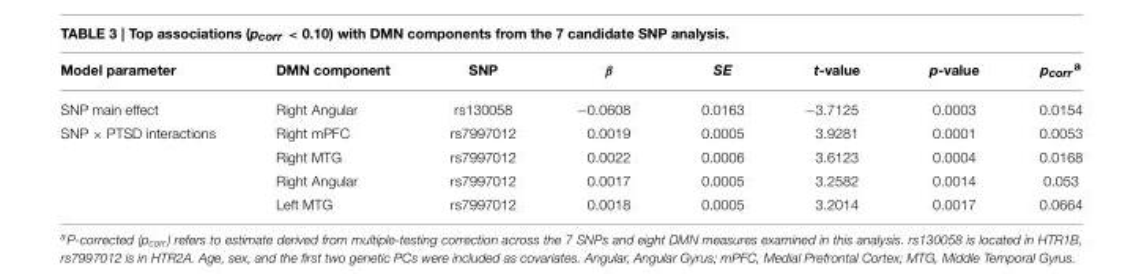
<table><thead><tr><td>Model parameter</td><td>DMN component</td><td>SNP</td><td>β</td><td>SE</td><td>t-value</td><td>p-value</td><td>p<sub>corr</sub><sup>a</sup></td></tr></thead><tbody><tr><td>SNP main effect</td><td>Right Angular</td><td>rs130058</td><td>−0.0608</td><td>0.0163</td><td>−3.7125</td><td>0.0003</td><td>0.0154</td></tr><tr><td rowspan="4">SNP × PTSD interactions</td><td>Right mPFC</td><td>rs7997012</td><td>0.0019</td><td>0.0005</td><td>3.9281</td><td>0.0001</td><td>0.0053</td></tr><tr><td>Right MTG</td><td>rs7997012</td><td>0.0022</td><td>0.0006</td><td>3.6123</td><td>0.0004</td><td>0.0168</td></tr><tr><td>Right Angular</td><td>rs7997012</td><td>0.0017</td><td>0.0005</td><td>3.2582</td><td>0.0014</td><td>0.053</td></tr><tr><td>Left MTG</td><td>rs7997012</td><td>0.0018</td><td>0.0005</td><td>3.2014</td><td>0.0017</td><td>0.0664</td></tr></tbody></table>